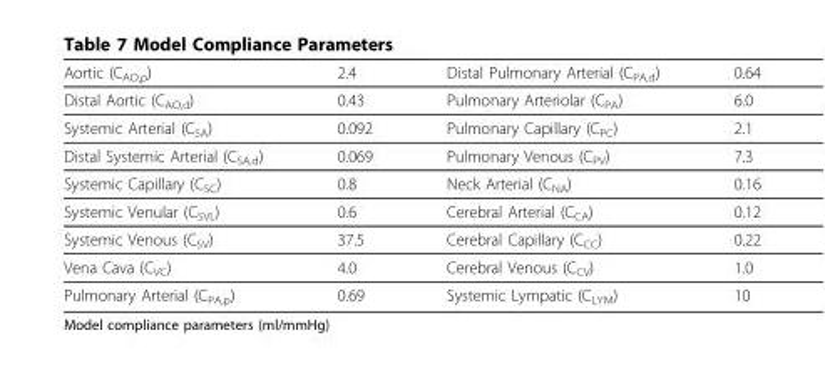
<table><thead><tr><td>Aortic (C<sub>AO,p</sub>)</td><td>2.4</td><td>Distal Pulmonary Arterial (C<sub>PA,d</sub>)</td><td>0.64</td></tr></thead><tbody><tr><td>Distal Aortic (C<sub>AO,d</sub>)</td><td>0.43</td><td>Pulmonary Arteriolar (C<sub>PA</sub>)</td><td>6.0</td></tr><tr><td>Systemic Arterial (C<sub>SA</sub>)</td><td>0.092</td><td>Pulmonary Capillary (C<sub>PC</sub>)</td><td>2.1</td></tr><tr><td>Distal Systemic Arterial (C<sub>SA,d</sub>)</td><td>0.069</td><td>Pulmonary Venous (C<sub>PV</sub>)</td><td>7.3</td></tr><tr><td>Systemic Capillary (C<sub>SC</sub>)</td><td>0.8</td><td>Neck Arterial (C<sub>NA</sub>)</td><td>0.16</td></tr><tr><td>Systemic Venular (C<sub>SVL</sub>)</td><td>0.6</td><td>Cerebral Arterial (C<sub>CA</sub>)</td><td>0.12</td></tr><tr><td>Systemic Venous (C<sub>SV</sub>)</td><td>37.5</td><td>Cerebral Capillary (C<sub>CC</sub>)</td><td>0.22</td></tr><tr><td>Vena Cava (C<sub>VC</sub>)</td><td>4.0</td><td>Cerebral Venous (C<sub>CV</sub>)</td><td>1.0</td></tr><tr><td>Pulmonary Arterial (C<sub>PA,p</sub>)</td><td>0.69</td><td>Systemic Lympatic (C<sub>LYM</sub>)</td><td>10</td></tr></tbody></table>